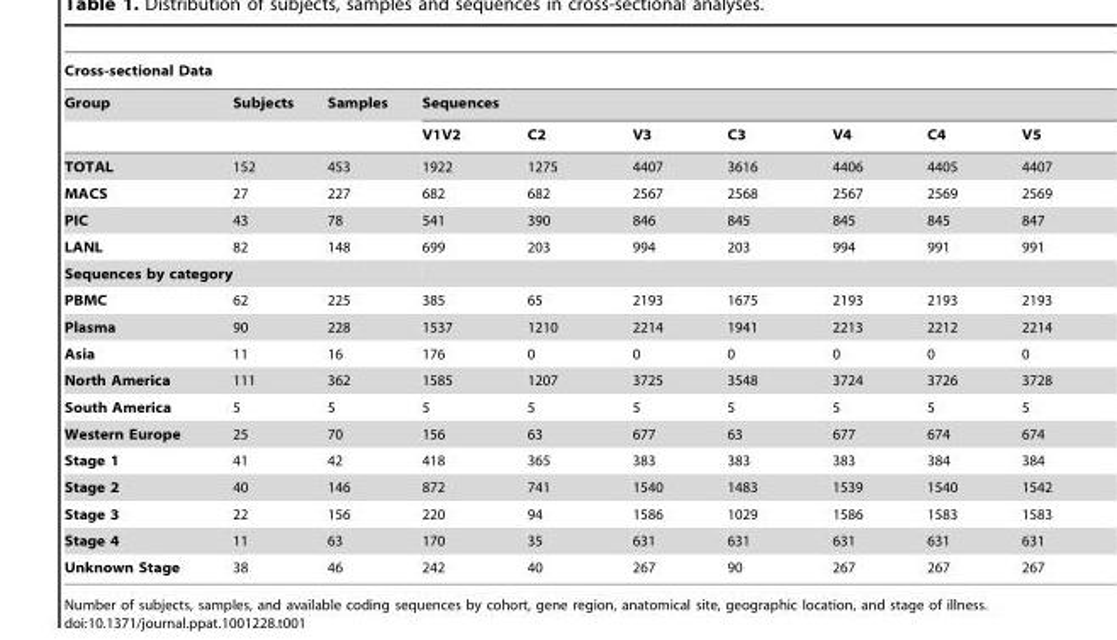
<table><thead><tr><td colspan="10">Cross-sectional Data</td></tr><tr><td rowspan="2">Group</td><td rowspan="2">Subjects</td><td rowspan="2">Samples</td><td colspan="7">Sequences</td></tr><tr><td>V1V2</td><td>C2</td><td>V3</td><td>C3</td><td>V4</td><td>C4</td><td>V5</td></tr></thead><tbody><tr><td>TOTAL</td><td>152</td><td>453</td><td>1922</td><td>1275</td><td>4407</td><td>3616</td><td>4406</td><td>4405</td><td>4407</td></tr><tr><td>MACS</td><td>27</td><td>227</td><td>682</td><td>682</td><td>2567</td><td>2568</td><td>2567</td><td>2569</td><td>2569</td></tr><tr><td>PIC</td><td>43</td><td>78</td><td>541</td><td>390</td><td>846</td><td>845</td><td>845</td><td>845</td><td>847</td></tr><tr><td>LANL</td><td>82</td><td>148</td><td>699</td><td>203</td><td>994</td><td>203</td><td>994</td><td>991</td><td>991</td></tr><tr><td colspan="10">Sequences by category</td></tr><tr><td>PBMC</td><td>62</td><td>225</td><td>385</td><td>65</td><td>2193</td><td>1675</td><td>2193</td><td>2193</td><td>2193</td></tr><tr><td>Plasma</td><td>90</td><td>228</td><td>1537</td><td>1210</td><td>2214</td><td>1941</td><td>2213</td><td>2212</td><td>2214</td></tr><tr><td>Asia</td><td>11</td><td>16</td><td>176</td><td>0</td><td>0</td><td>0</td><td>0</td><td>0</td><td>0</td></tr><tr><td>North America</td><td>111</td><td>362</td><td>1585</td><td>1207</td><td>3725</td><td>3548</td><td>3724</td><td>3726</td><td>3728</td></tr><tr><td>South America</td><td>5</td><td>5</td><td>5</td><td>5</td><td>5</td><td>5</td><td>5</td><td>5</td><td>5</td></tr><tr><td>Western Europe</td><td>25</td><td>70</td><td>156</td><td>63</td><td>677</td><td>63</td><td>677</td><td>674</td><td>674</td></tr><tr><td>Stage 1</td><td>41</td><td>42</td><td>418</td><td>365</td><td>383</td><td>383</td><td>383</td><td>384</td><td>384</td></tr><tr><td>Stage 2</td><td>40</td><td>146</td><td>872</td><td>741</td><td>1540</td><td>1483</td><td>1539</td><td>1540</td><td>1542</td></tr><tr><td>Stage 3</td><td>22</td><td>156</td><td>220</td><td>94</td><td>1586</td><td>1029</td><td>1586</td><td>1583</td><td>1583</td></tr><tr><td>Stage 4</td><td>11</td><td>63</td><td>170</td><td>35</td><td>631</td><td>631</td><td>631</td><td>631</td><td>631</td></tr><tr><td>Unknown Stage</td><td>38</td><td>46</td><td>242</td><td>40</td><td>267</td><td>90</td><td>267</td><td>267</td><td>267</td></tr></tbody></table>